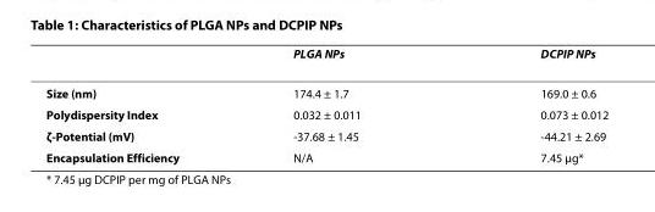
<table><thead><tr><td></td><td>PLGA NPs</td><td>DCPIP NPs</td></tr></thead><tbody><tr><td>Size (nm)</td><td>174.4 ± 1.7</td><td>169.0 ± 0.6</td></tr><tr><td>Polydispersity Index</td><td>0.032 ± 0.011</td><td>0.073 ± 0.012</td></tr><tr><td>ζ-Potential (mV)</td><td>-37.68 ± 1.45</td><td>-44.21 ± 2.69</td></tr><tr><td>Encapsulation Efficiency</td><td>N/A</td><td>7.45 μg*</td></tr></tbody></table>